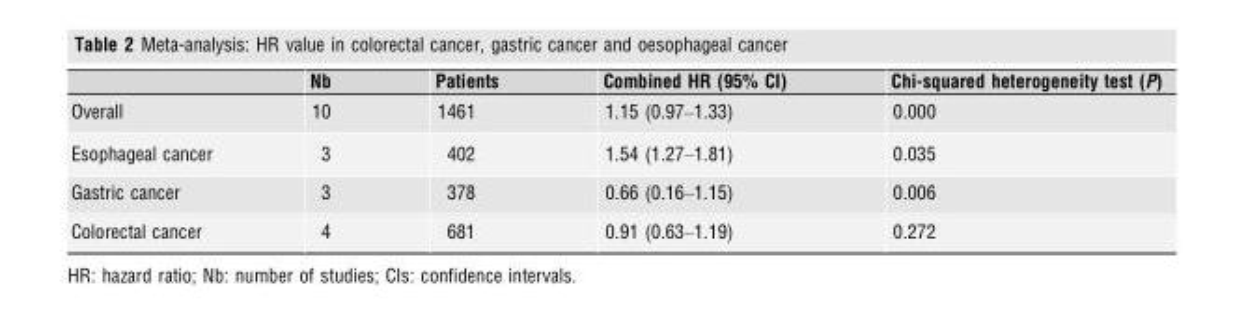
<table><thead><tr><td></td><td>Nb</td><td>Patients</td><td>Combined HR (95% CI)</td><td>Chi-squared heterogeneity test (P)</td></tr></thead><tbody><tr><td>Overall</td><td>10</td><td>1461</td><td>1.15 (0.97–1.33)</td><td>0.000</td></tr><tr><td>Esophageal cancer</td><td>3</td><td>402</td><td>1.54 (1.27–1.81)</td><td>0.035</td></tr><tr><td>Gastric cancer</td><td>3</td><td>378</td><td>0.66 (0.16–1.15)</td><td>0.006</td></tr><tr><td>Colorectal cancer</td><td>4</td><td>681</td><td>0.91 (0.63–1.19)</td><td>0.272</td></tr></tbody></table>